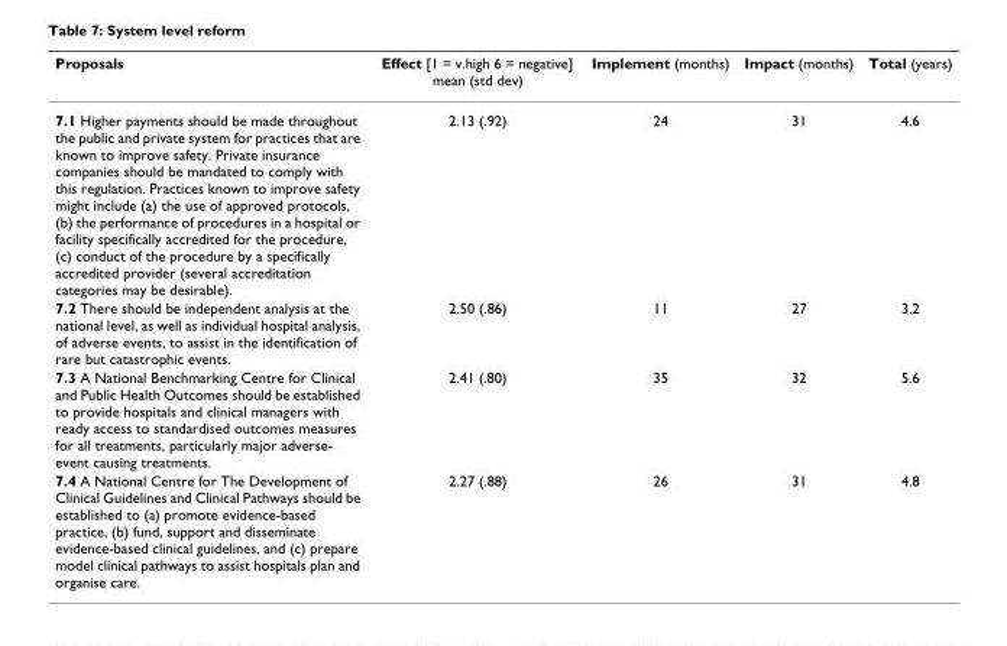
<table><thead><tr><td>Proposals</td><td>Effect [1 = v.high 6 = negative] mean (std dev)</td><td>Implement (months)</td><td>Impact (months)</td><td>Total (years)</td></tr></thead><tbody><tr><td>7.1 Higher payments should be made throughout the public and private system for practices that are known to improve safety. Private insurance companies should be mandated to comply with this regulation. Practices known to improve safety might include (a) the use of approved protocols, (b) the performance of procedures in a hospital or facility specifically accredited for the procedure, (c) conduct of the procedure by a specifically accredited provider (several accreditation categories may be desirable).</td><td>2.13 (.92)</td><td>24</td><td>31</td><td>4.6</td></tr><tr><td>7.2 There should be independent analysis at the national level, as well as individual hospital analysis, of adverse events, to assist in the identification of rare but catastrophic events.</td><td>2.50 (.86)</td><td>11</td><td>27</td><td>3.2</td></tr><tr><td>7.3 A National Benchmarking Centre for Clinical and Public Health Outcomes should be established to provide hospitals and clinical managers with ready access to standardised outcomes measures for all treatments, particularly major adverse- event causing treatments.</td><td>2.41 (.80)</td><td>35</td><td>32</td><td>5.6</td></tr><tr><td>7.4 A National Centre for The Development of Clinical Guidelines and Clinical Pathways should be established to (a) promote evidence-based practice, (b) fund, support and disseminate evidence-based clinical guidelines, and (c) prepare model clinical pathways to assist hospitals plan and organise care.</td><td>2.27 (.88)</td><td>26</td><td>31</td><td>4.8</td></tr></tbody></table>